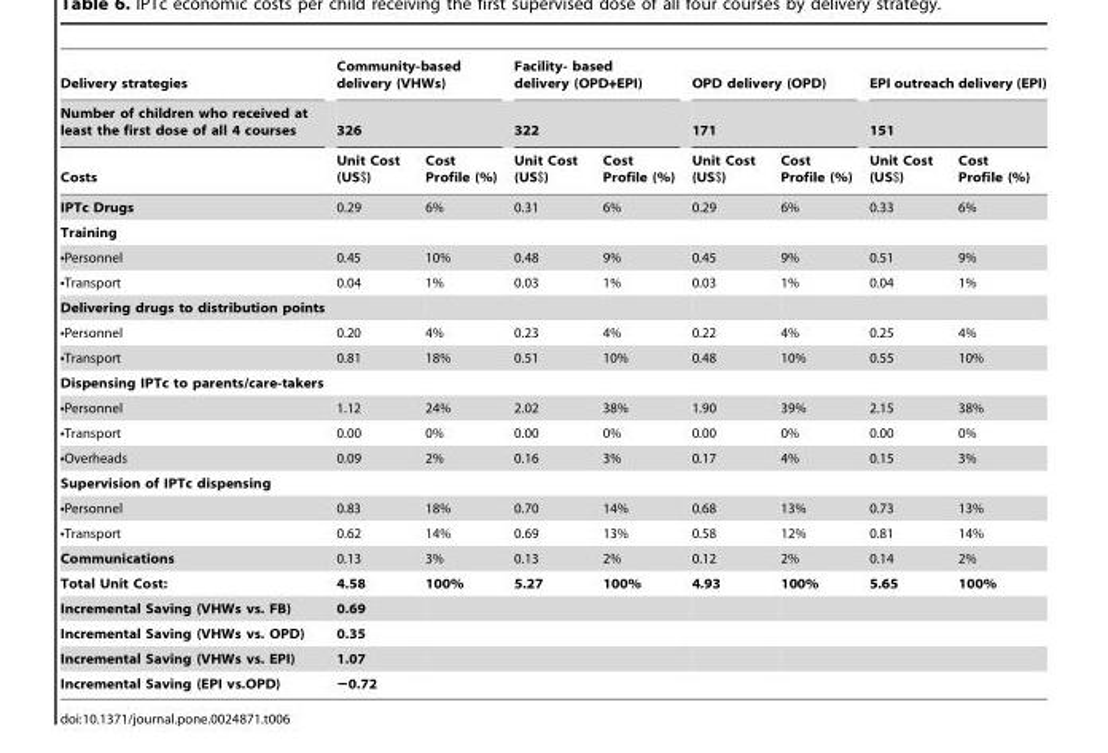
<table><thead><tr><td rowspan="3">Delivery strategies Number of children who received at least the first dose of all 4 courses Costs</td><td rowspan="2" colspan="2">Community-based delivery (VHWs) 326</td><td rowspan="2" colspan="2">Facility- based delivery (OPD+EPI) 322</td><td rowspan="2" colspan="2">OPD delivery (OPD) 171</td><td rowspan="2" colspan="2">EPI outreach delivery (EPI) 151</td></tr><tr></tr><tr><td>Unit Cost (US$)</td><td>Cost Profile (%)</td><td>Unit Cost (US$)</td><td>Cost Profile (%)</td><td>Unit Cost (US$)</td><td>Cost Profile (%)</td><td>Unit Cost (US$)</td><td>Cost Profile (%)</td></tr></thead><tbody><tr><td>IPTc Drugs</td><td>0.29</td><td>6%</td><td>0.31</td><td>6%</td><td>0.29</td><td>6%</td><td>0.33</td><td>6%</td></tr><tr><td colspan="9">Training</td></tr><tr><td>•Personnel</td><td>0.45</td><td>10%</td><td>0.48</td><td>9%</td><td>0.45</td><td>9%</td><td>0.51</td><td>9%</td></tr><tr><td>•Transport</td><td>0.04</td><td>1%</td><td>0.03</td><td>1%</td><td>0.03</td><td>1%</td><td>0.04</td><td>1%</td></tr><tr><td colspan="9">Delivering drugs to distribution points</td></tr><tr><td>•Personnel</td><td>0.20</td><td>4%</td><td>0.23</td><td>4%</td><td>0.22</td><td>4%</td><td>0.25</td><td>4%</td></tr><tr><td>•Transport</td><td>0.81</td><td>18%</td><td>0.51</td><td>10%</td><td>0.48</td><td>10%</td><td>0.55</td><td>10%</td></tr><tr><td colspan="9">Dispensing IPTc to parents/care-takers</td></tr><tr><td>•Personnel</td><td>1.12</td><td>24%</td><td>2.02</td><td>38%</td><td>1.90</td><td>39%</td><td>2.15</td><td>38%</td></tr><tr><td>•Transport</td><td>0.00</td><td>0%</td><td>0.00</td><td>0%</td><td>0.00</td><td>0%</td><td>0.00</td><td>0%</td></tr><tr><td>•Overheads</td><td>0.09</td><td>2%</td><td>0.16</td><td>3%</td><td>0.17</td><td>4%</td><td>0.15</td><td>3%</td></tr><tr><td colspan="9">Supervision of IPTc dispensing</td></tr><tr><td>•Personnel</td><td>0.83</td><td>18%</td><td>0.70</td><td>14%</td><td>0.68</td><td>13%</td><td>0.73</td><td>13%</td></tr><tr><td>•Transport</td><td>0.62</td><td>14%</td><td>0.69</td><td>13%</td><td>0.58</td><td>12%</td><td>0.81</td><td>14%</td></tr><tr><td>Communications</td><td>0.13</td><td>3%</td><td>0.13</td><td>2%</td><td>0.12</td><td>2%</td><td>0.14</td><td>2%</td></tr><tr><td>Total Unit Cost:</td><td>4.58</td><td>100%</td><td>5.27</td><td>100%</td><td>4.93</td><td>100%</td><td>5.65</td><td>100%</td></tr><tr><td>Incremental Saving (VHWs vs. FB)</td><td>0.69</td><td></td><td></td><td></td><td></td><td></td><td></td><td></td></tr><tr><td>Incremental Saving (VHWs vs. OPD)</td><td>0.35</td><td></td><td></td><td></td><td></td><td></td><td></td><td></td></tr><tr><td>Incremental Saving (VHWs vs. EPI)</td><td>1.07</td><td></td><td></td><td></td><td></td><td></td><td></td><td></td></tr><tr><td>Incremental Saving (EPI vs.OPD)</td><td>−0.72</td><td></td><td></td><td></td><td></td><td></td><td></td><td></td></tr></tbody></table>